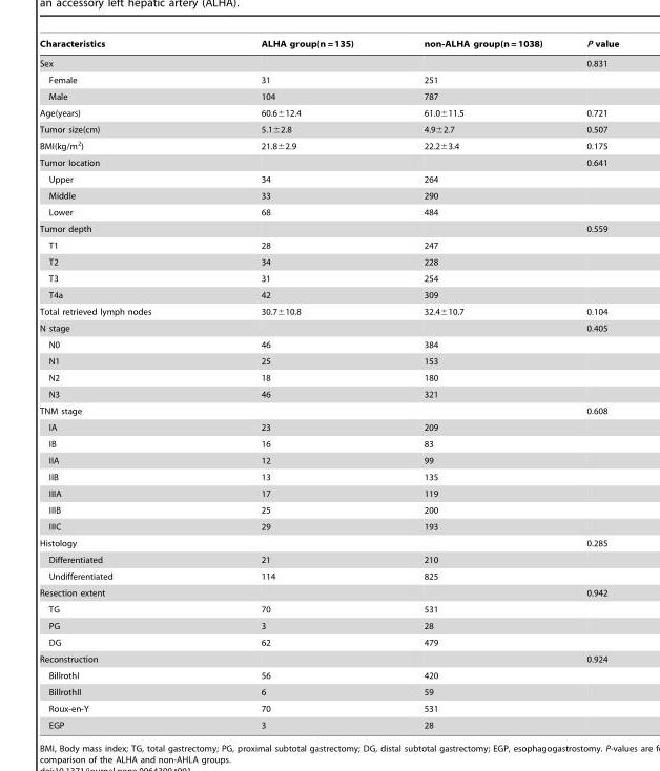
<table><thead><tr><td>Characteristics</td><td>ALHA group(n = 135)</td><td>non-ALHA group(n = 1038)</td><td>P value</td></tr></thead><tbody><tr><td>Sex</td><td></td><td></td><td>0.831</td></tr><tr><td>Female</td><td>31</td><td>251</td><td></td></tr><tr><td>Male</td><td>104</td><td>787</td><td></td></tr><tr><td>Age(years)</td><td>60.6±12.4</td><td>61.0±11.5</td><td>0.721</td></tr><tr><td>Tumor size(cm)</td><td>5.1±2.8</td><td>4.9±2.7</td><td>0.507</td></tr><tr><td>BMI(kg/m<sup>2</sup>)</td><td>21.8±2.9</td><td>22.2±3.4</td><td>0.175</td></tr><tr><td>Tumor location</td><td></td><td></td><td>0.641</td></tr><tr><td>Upper</td><td>34</td><td>264</td><td></td></tr><tr><td>Middle</td><td>33</td><td>290</td><td></td></tr><tr><td>Lower</td><td>68</td><td>484</td><td></td></tr><tr><td>Tumor depth</td><td></td><td></td><td>0.559</td></tr><tr><td>T1</td><td>28</td><td>247</td><td></td></tr><tr><td>T2</td><td>34</td><td>228</td><td></td></tr><tr><td>T3</td><td>31</td><td>254</td><td></td></tr><tr><td>T4a</td><td>42</td><td>309</td><td></td></tr><tr><td>Total retrieved lymph nodes</td><td>30.7±10.8</td><td>32.4±10.7</td><td>0.104</td></tr><tr><td>N stage</td><td></td><td></td><td>0.405</td></tr><tr><td>N0</td><td>46</td><td>384</td><td></td></tr><tr><td>N1</td><td>25</td><td>153</td><td></td></tr><tr><td>N2</td><td>18</td><td>180</td><td></td></tr><tr><td>N3</td><td>46</td><td>321</td><td></td></tr><tr><td>TNM stage</td><td></td><td></td><td>0.608</td></tr><tr><td>IA</td><td>23</td><td>209</td><td></td></tr><tr><td>IB</td><td>16</td><td>83</td><td></td></tr><tr><td>IIA</td><td>12</td><td>99</td><td></td></tr><tr><td>IIB</td><td>13</td><td>135</td><td></td></tr><tr><td>IIIA</td><td>17</td><td>119</td><td></td></tr><tr><td>IIIB</td><td>25</td><td>200</td><td></td></tr><tr><td>IIIC</td><td>29</td><td>193</td><td></td></tr><tr><td>Histology</td><td></td><td></td><td>0.285</td></tr><tr><td>Differentiated</td><td>21</td><td>210</td><td></td></tr><tr><td>Undifferentiated</td><td>114</td><td>825</td><td></td></tr><tr><td>Resection extent</td><td></td><td></td><td>0.942</td></tr><tr><td>TG</td><td>70</td><td>531</td><td></td></tr><tr><td>PG</td><td>3</td><td>28</td><td></td></tr><tr><td>DG</td><td>62</td><td>479</td><td></td></tr><tr><td>Reconstruction</td><td></td><td></td><td>0.924</td></tr><tr><td>BillrothI</td><td>56</td><td>420</td><td></td></tr><tr><td>BillrothII</td><td>6</td><td>59</td><td></td></tr><tr><td>Roux-en-Y</td><td>70</td><td>531</td><td></td></tr><tr><td>EGP</td><td>3</td><td>28</td><td></td></tr></tbody></table>